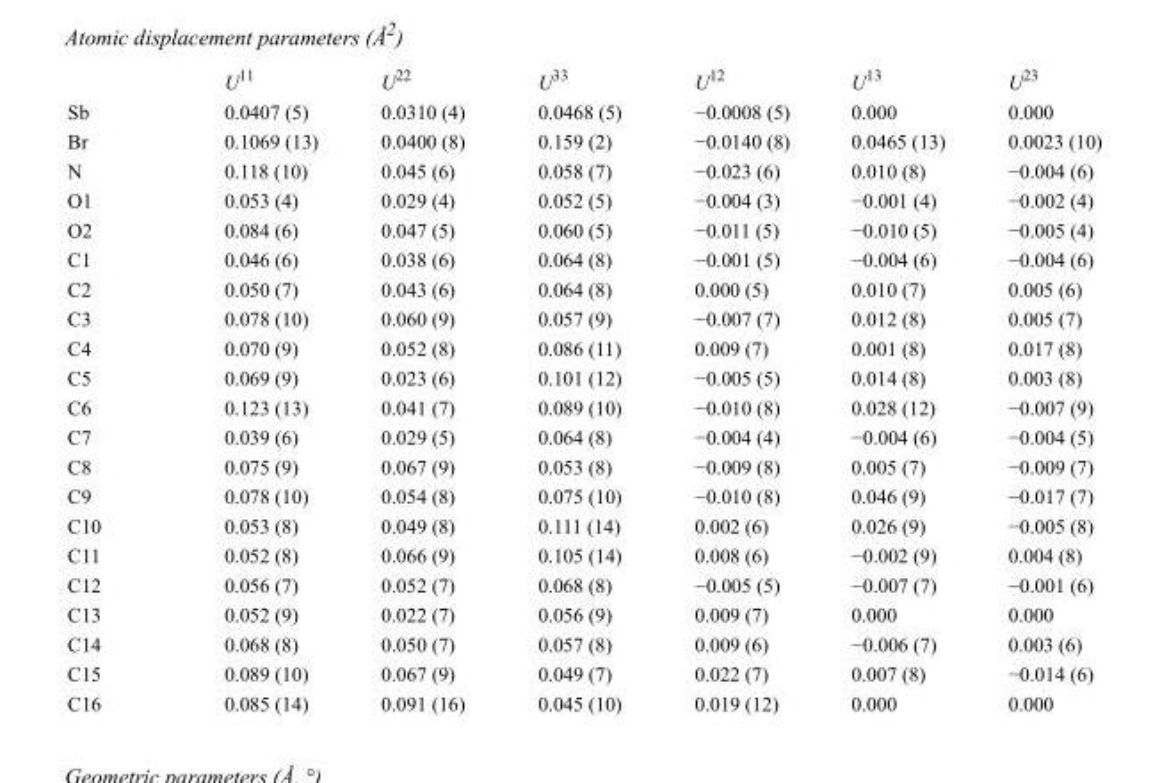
<table><thead><tr><td></td><td>U<sup>11</sup></td><td>U<sup>22</sup></td><td>U<sup>33</sup></td><td>U<sup>12</sup></td><td>U<sup>13</sup></td><td>U<sup>23</sup></td></tr></thead><tbody><tr><td>Sb</td><td>0.0407 (5)</td><td>0.0310 (4)</td><td>0.0468 (5)</td><td>−0.0008 (5)</td><td>0.000</td><td>0.000</td></tr><tr><td>Br</td><td>0.1069 (13)</td><td>0.0400 (8)</td><td>0.159 (2)</td><td>−0.0140 (8)</td><td>0.0465 (13)</td><td>0.0023 (10)</td></tr><tr><td>N</td><td>0.118 (10)</td><td>0.045 (6)</td><td>0.058 (7)</td><td>−0.023 (6)</td><td>0.010 (8)</td><td>−0.004 (6)</td></tr><tr><td>O1</td><td>0.053 (4)</td><td>0.029 (4)</td><td>0.052 (5)</td><td>−0.004 (3)</td><td>−0.001 (4)</td><td>−0.002 (4)</td></tr><tr><td>O2</td><td>0.084 (6)</td><td>0.047 (5)</td><td>0.060 (5)</td><td>−0.011 (5)</td><td>−0.010 (5)</td><td>−0.005 (4)</td></tr><tr><td>C1</td><td>0.046 (6)</td><td>0.038 (6)</td><td>0.064 (8)</td><td>−0.001 (5)</td><td>−0.004 (6)</td><td>−0.004 (6)</td></tr><tr><td>C2</td><td>0.050 (7)</td><td>0.043 (6)</td><td>0.064 (8)</td><td>0.000 (5)</td><td>0.010 (7)</td><td>0.005 (6)</td></tr><tr><td>C3</td><td>0.078 (10)</td><td>0.060 (9)</td><td>0.057 (9)</td><td>−0.007 (7)</td><td>0.012 (8)</td><td>0.005 (7)</td></tr><tr><td>C4</td><td>0.070 (9)</td><td>0.052 (8)</td><td>0.086 (11)</td><td>0.009 (7)</td><td>0.001 (8)</td><td>0.017 (8)</td></tr><tr><td>C5</td><td>0.069 (9)</td><td>0.023 (6)</td><td>0.101 (12)</td><td>−0.005 (5)</td><td>0.014 (8)</td><td>0.003 (8)</td></tr><tr><td>C6</td><td>0.123 (13)</td><td>0.041 (7)</td><td>0.089 (10)</td><td>−0.010 (8)</td><td>0.028 (12)</td><td>−0.007 (9)</td></tr><tr><td>C7</td><td>0.039 (6)</td><td>0.029 (5)</td><td>0.064 (8)</td><td>−0.004 (4)</td><td>−0.004 (6)</td><td>−0.004 (5)</td></tr><tr><td>C8</td><td>0.075 (9)</td><td>0.067 (9)</td><td>0.053 (8)</td><td>−0.009 (8)</td><td>0.005 (7)</td><td>−0.009 (7)</td></tr><tr><td>C9</td><td>0.078 (10)</td><td>0.054 (8)</td><td>0.075 (10)</td><td>−0.010 (8)</td><td>0.046 (9)</td><td>−0.017 (7)</td></tr><tr><td>C10</td><td>0.053 (8)</td><td>0.049 (8)</td><td>0.111 (14)</td><td>0.002 (6)</td><td>0.026 (9)</td><td>−0.005 (8)</td></tr><tr><td>C11</td><td>0.052 (8)</td><td>0.066 (9)</td><td>0.105 (14)</td><td>0.008 (6)</td><td>−0.002 (9)</td><td>0.004 (8)</td></tr><tr><td>C12</td><td>0.056 (7)</td><td>0.052 (7)</td><td>0.068 (8)</td><td>−0.005 (5)</td><td>−0.007 (7)</td><td>−0.001 (6)</td></tr><tr><td>C13</td><td>0.052 (9)</td><td>0.022 (7)</td><td>0.056 (9)</td><td>0.009 (7)</td><td>0.000</td><td>0.000</td></tr><tr><td>C14</td><td>0.068 (8)</td><td>0.050 (7)</td><td>0.057 (8)</td><td>0.009 (6)</td><td>−0.006 (7)</td><td>0.003 (6)</td></tr><tr><td>C15</td><td>0.089 (10)</td><td>0.067 (9)</td><td>0.049 (7)</td><td>0.022 (7)</td><td>0.007 (8)</td><td>−0.014 (6)</td></tr><tr><td>C16</td><td>0.085 (14)</td><td>0.091 (16)</td><td>0.045 (10)</td><td>0.019 (12)</td><td>0.000</td><td>0.000</td></tr></tbody></table>